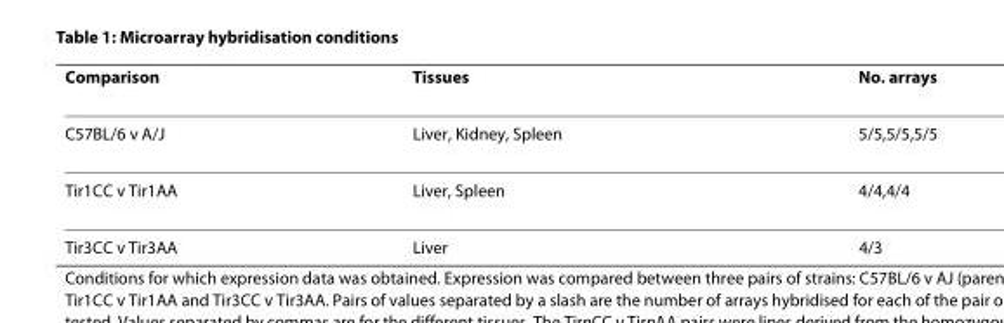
<table><thead><tr><td>Comparison</td><td>Tissues</td><td>No. arrays</td></tr></thead><tbody><tr><td>C57BL/6 v A/J</td><td>Liver, Kidney, Spleen</td><td>5/5,5/5,5/5</td></tr><tr><td>Tir1CC v Tir1AA</td><td>Liver, Spleen</td><td>4/4,4/4</td></tr><tr><td>Tir3CC v Tir3AA</td><td>Liver</td><td>4/3</td></tr></tbody></table>